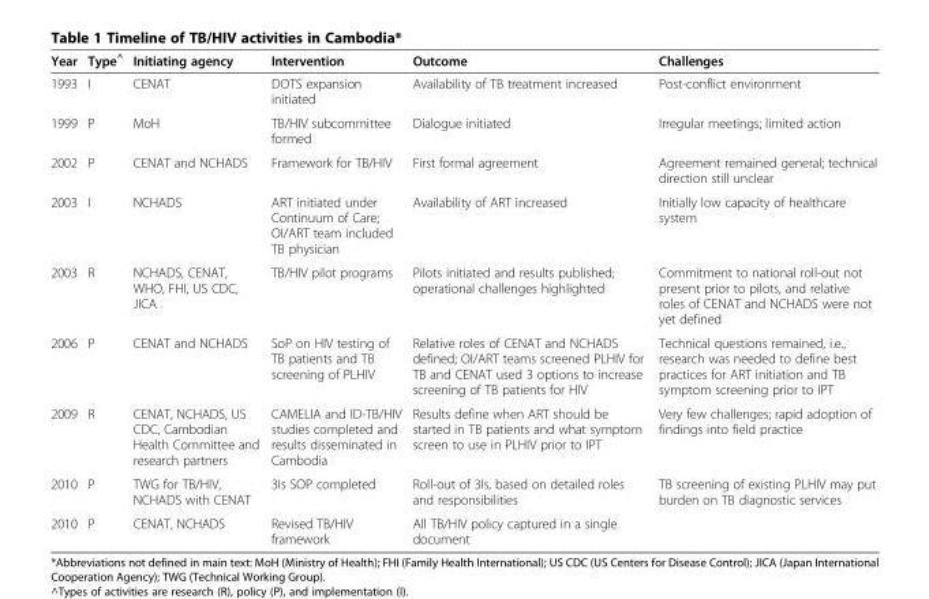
<table><thead><tr><td>Year</td><td>Type<sup>^</sup></td><td>Initiating agency</td><td>Intervention</td><td>Outcome</td><td>Challenges</td></tr></thead><tbody><tr><td>1993</td><td>I</td><td>CENAT</td><td>DOTS expansion initiated</td><td>Availability of TB treatment increased</td><td>Post-conflict environment</td></tr><tr><td>1999</td><td>P</td><td>MoH</td><td>TB/HIV subcommittee formed</td><td>Dialogue initiated</td><td>Irregular meetings; limited action</td></tr><tr><td>2002</td><td>P</td><td>CENAT and NCHADS</td><td>Framework for TB/HIV</td><td>First formal agreement</td><td>Agreement remained general; technical direction still unclear</td></tr><tr><td>2003</td><td>I</td><td>NCHADS</td><td>ART initiated under Continuum of Care; OI/ART team included TB physician</td><td>Availability of ART increased</td><td>Initially low capacity of healthcare system</td></tr><tr><td>2003</td><td>R</td><td>NCHADS, CENAT, WHO, FHI, US CDC, JICA</td><td>TB/HIV pilot programs</td><td>Pilots initiated and results published; operational challenges highlighted</td><td>Commitment to national roll-out not present prior to pilots, and relative roles of CENAT and NCHADS were not yet defined</td></tr><tr><td>2006</td><td>P</td><td>CENAT and NCHADS</td><td>SoP on HIV testing of TB patients and TB screening of PLHIV</td><td>Relative roles of CENAT and NCHADS defined; OI/ART teams screened PLHIV for TB and CENAT used 3 options to increase screening of TB patients for HIV</td><td>Technical questions remained, i.e., research was needed to define best practices for ART initiation and TB symptom screening prior to IPT</td></tr><tr><td>2009</td><td>R</td><td>CENAT, NCHADS, US CDC, Cambodian Health Committee and research partners</td><td>CAMELIA and ID-TB/HIV studies completed and results disseminated in Cambodia</td><td>Results define when ART should be started in TB patients and what symptom screen to use in PLHIV prior to IPT</td><td>Very few challenges; rapid adoption of findings into field practice</td></tr><tr><td>2010</td><td>P</td><td>TWG for TB/HIV, NCHADS with CENAT</td><td>3Is SOP completed</td><td>Roll-out of 3Is, based on detailed roles and responsibilities</td><td>TB screening of existing PLHIV may put burden on TB diagnostic services</td></tr><tr><td>2010</td><td>P</td><td>CENAT, NCHADS</td><td>Revised TB/HIV framework</td><td>All TB/HIV policy captured in a single document</td><td></td></tr></tbody></table>